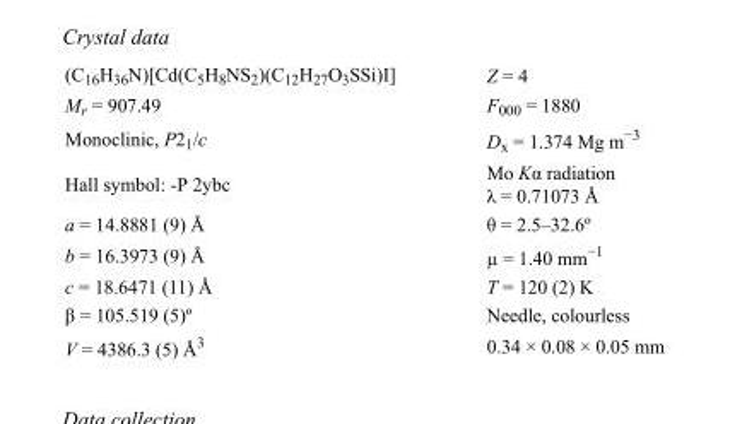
<table><tbody><tr><td>(C<sub>16</sub>H<sub>36</sub>N)[Cd(C<sub>5</sub>H<sub>8</sub>NS<sub>2</sub>)(C<sub>12</sub>H<sub>27</sub>O<sub>3</sub>SSi)I]</td><td>Z = 4</td></tr><tr><td>M<sub>r</sub> = 907.49</td><td>F<sub>000</sub> = 1880</td></tr><tr><td>Monoclinic, P2<sub>1</sub>/c</td><td>D<sub>x</sub> = 1.374 Mg m<sup>−3</sup></td></tr><tr><td>Hall symbol: -P 2ybc</td><td>Mo Kα radiation λ = 0.71073 Å</td></tr><tr><td>a = 14.8881 (9) Å</td><td>θ = 2.5–32.6º</td></tr><tr><td>b = 16.3973 (9) Å</td><td>µ = 1.40 mm<sup>−1</sup></td></tr><tr><td>c = 18.6471 (11) Å</td><td>T = 120 (2) K</td></tr><tr><td>β = 105.519 (5)º</td><td>Needle, colourless</td></tr><tr><td>V = 4386.3 (5) Å<sup>3</sup></td><td>0.34 × 0.08 × 0.05 mm</td></tr></tbody></table>